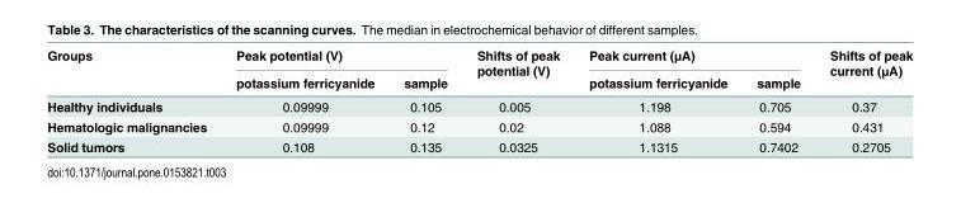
<table><thead><tr><td rowspan="2">Groups</td><td colspan="2">Peak potential (V)</td><td rowspan="2">Shifts of peak potential (V)</td><td colspan="2">Peak current (μA)</td><td rowspan="2">Shifts of peak current (μA)</td></tr><tr><td>potassium ferricyanide</td><td>sample</td><td>potassium ferricyanide</td><td>sample</td></tr></thead><tbody><tr><td>Healthy individuals</td><td>0.09999</td><td>0.105</td><td>0.005</td><td>1.198</td><td>0.705</td><td>0.37</td></tr><tr><td>Hematologic malignancies</td><td>0.09999</td><td>0.12</td><td>0.02</td><td>1.088</td><td>0.594</td><td>0.431</td></tr><tr><td>Solid tumors</td><td>0.108</td><td>0.135</td><td>0.0325</td><td>1.1315</td><td>0.7402</td><td>0.2705</td></tr></tbody></table>